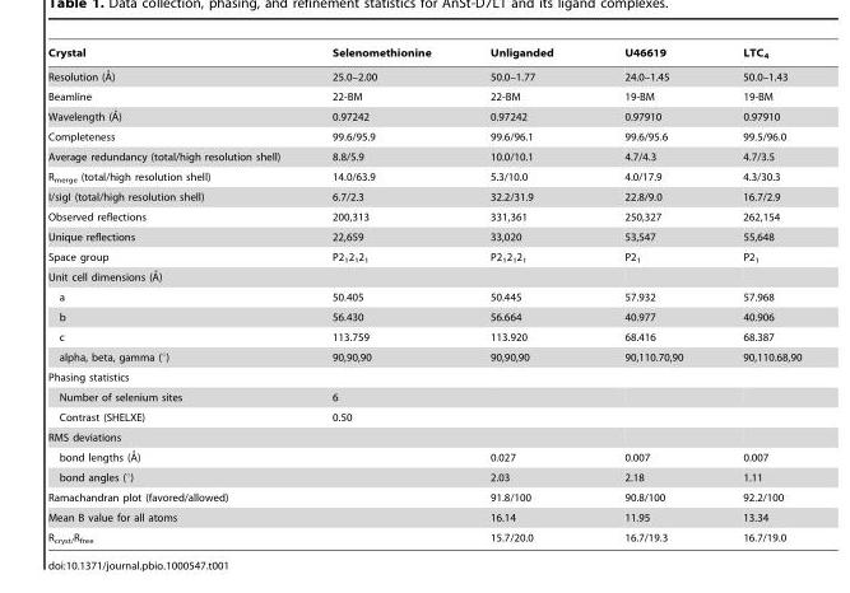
<table><thead><tr><td>Crystal</td><td>Selenomethionine</td><td>Unliganded</td><td>U46619</td><td>LTC<sub>4</sub></td></tr></thead><tbody><tr><td>Resolution (A˚)</td><td>25.0–2.00</td><td>50.0–1.77</td><td>24.0–1.45</td><td>50.0–1.43</td></tr><tr><td>Beamline</td><td>22-BM</td><td>22-BM</td><td>19-BM</td><td>19-BM</td></tr><tr><td>Wavelength (A˚)</td><td>0.97242</td><td>0.97242</td><td>0.97910</td><td>0.97910</td></tr><tr><td>Completeness</td><td>99.6/95.9</td><td>99.6/96.1</td><td>99.6/95.6</td><td>99.5/96.0</td></tr><tr><td>Average redundancy (total/high resolution shell)</td><td>8.8/5.9</td><td>10.0/10.1</td><td>4.7/4.3</td><td>4.7/3.5</td></tr><tr><td>R<sub>merge</sub> (total/high resolution shell)</td><td>14.0/63.9</td><td>5.3/10.0</td><td>4.0/17.9</td><td>4.3/30.3</td></tr><tr><td>I/sigI (total/high resolution shell)</td><td>6.7/2.3</td><td>32.2/31.9</td><td>22.8/9.0</td><td>16.7/2.9</td></tr><tr><td>Observed reflections</td><td>200,313</td><td>331,361</td><td>250,327</td><td>262,154</td></tr><tr><td>Unique reflections</td><td>22,659</td><td>33,020</td><td>53,547</td><td>55,648</td></tr><tr><td>Space group</td><td>P2<sub>1</sub>2<sub>1</sub>2<sub>1</sub></td><td>P2<sub>1</sub>2<sub>1</sub>2<sub>1</sub></td><td>P2<sub>1</sub></td><td>P2<sub>1</sub></td></tr><tr><td colspan="5">Unit cell dimensions (A˚)</td></tr><tr><td>a</td><td>50.405</td><td>50.445</td><td>57.932</td><td>57.968</td></tr><tr><td>b</td><td>56.430</td><td>56.664</td><td>40.977</td><td>40.906</td></tr><tr><td>c</td><td>113.759</td><td>113.920</td><td>68.416</td><td>68.387</td></tr><tr><td>alpha, beta, gamma (°)</td><td>90,90,90</td><td>90,90,90</td><td>90,110.70,90</td><td>90,110.68,90</td></tr><tr><td colspan="5">Phasing statistics</td></tr><tr><td>Number of selenium sites</td><td>6</td><td></td><td></td><td></td></tr><tr><td>Contrast (SHELXE)</td><td>0.50</td><td></td><td></td><td></td></tr><tr><td colspan="5">RMS deviations</td></tr><tr><td>bond lengths (A˚)</td><td></td><td>0.027</td><td>0.007</td><td>0.007</td></tr><tr><td>bond angles (°)</td><td></td><td>2.03</td><td>2.18</td><td>1.11</td></tr><tr><td>Ramachandran plot (favored/allowed)</td><td></td><td>91.8/100</td><td>90.8/100</td><td>92.2/100</td></tr><tr><td>Mean B value for all atoms</td><td></td><td>16.14</td><td>11.95</td><td>13.34</td></tr><tr><td>R<sub>cryst/</sub>R<sub>free</sub></td><td></td><td>15.7/20.0</td><td>16.7/19.3</td><td>16.7/19.0</td></tr></tbody></table>